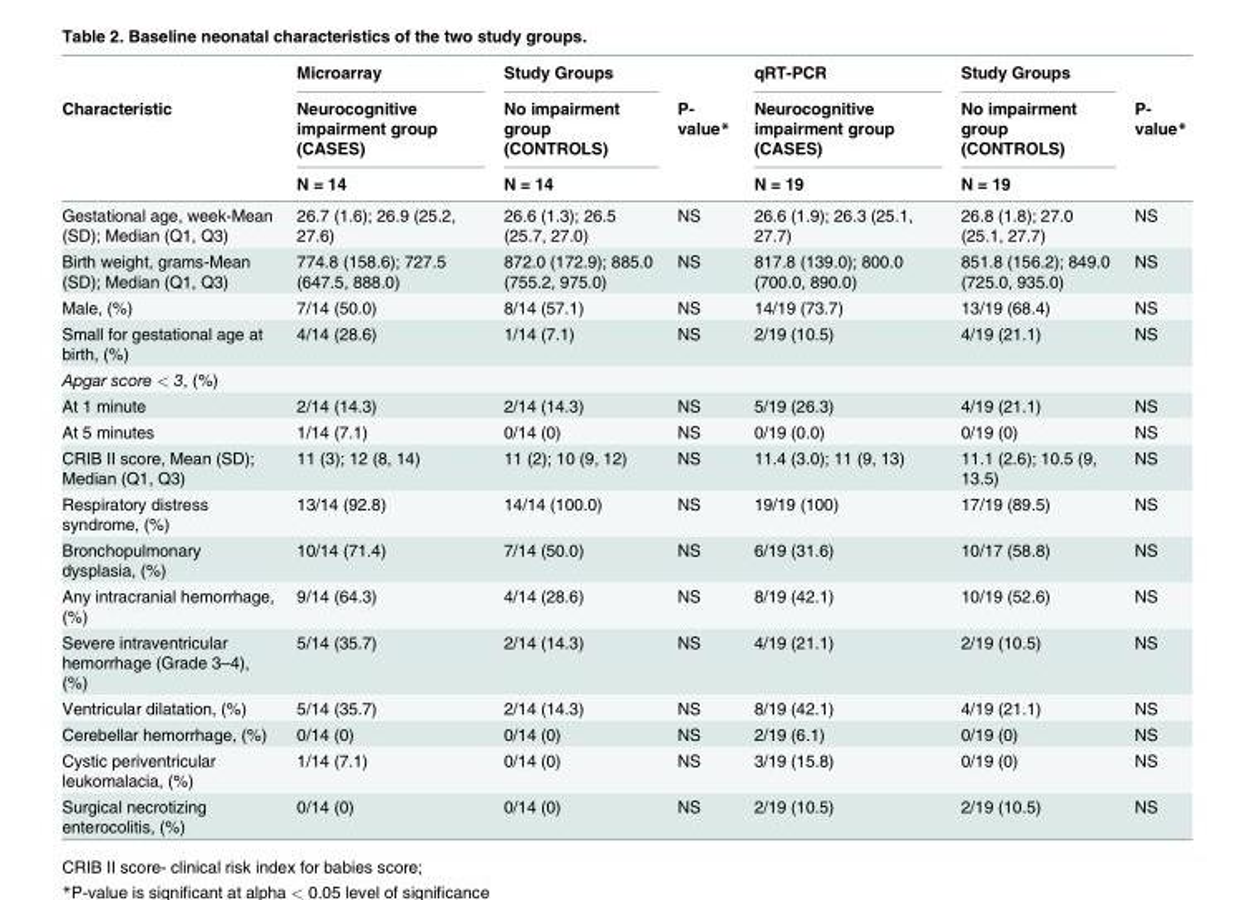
<table><thead><tr><td rowspan="3">Characteristic</td><td rowspan="3">Microarray Neurocognitive impairment group (CASES) N = 14</td><td rowspan="3">Study Groups No impairment group (CONTROLS) N = 14</td><td rowspan="3">P- value*</td><td rowspan="3">qRT-PCR Neurocognitive impairment group (CASES) N = 19</td><td rowspan="3">Study Groups No impairment group (CONTROLS) N = 19</td><td rowspan="3">P- value*</td></tr><tr></tr><tr></tr></thead><tbody><tr><td>Gestational age, week-Mean (SD); Median (Q1, Q3)</td><td>26.7 (1.6); 26.9 (25.2, 27.6)</td><td>26.6 (1.3); 26.5 (25.7, 27.0)</td><td>NS</td><td>26.6 (1.9); 26.3 (25.1, 27.7)</td><td>26.8 (1.8); 27.0 (25.1, 27.7)</td><td>NS</td></tr><tr><td>Birth weight, grams-Mean (SD); Median (Q1, Q3)</td><td>774.8 (158.6); 727.5 (647.5, 888.0)</td><td>872.0 (172.9); 885.0 (755.2, 975.0)</td><td>NS</td><td>817.8 (139.0); 800.0 (700.0, 890.0)</td><td>851.8 (156.2); 849.0 (725.0, 935.0)</td><td>NS</td></tr><tr><td>Male, (%)</td><td>7/14 (50.0)</td><td>8/14 (57.1)</td><td>NS</td><td>14/19 (73.7)</td><td>13/19 (68.4)</td><td>NS</td></tr><tr><td>Small for gestational age at birth, (%)</td><td>4/14 (28.6)</td><td>1/14 (7.1)</td><td>NS</td><td>2/19 (10.5)</td><td>4/19 (21.1)</td><td>NS</td></tr><tr><td colspan="7">Apgar score &lt; 3, (%)</td></tr><tr><td>At 1 minute</td><td>2/14 (14.3)</td><td>2/14 (14.3)</td><td>NS</td><td>5/19 (26.3)</td><td>4/19 (21.1)</td><td>NS</td></tr><tr><td>At 5 minutes</td><td>1/14 (7.1)</td><td>0/14 (0)</td><td>NS</td><td>0/19 (0.0)</td><td>0/19 (0)</td><td>NS</td></tr><tr><td>CRIB II score, Mean (SD); Median (Q1, Q3)</td><td>11 (3); 12 (8, 14)</td><td>11 (2); 10 (9, 12)</td><td>NS</td><td>11.4 (3.0); 11 (9, 13)</td><td>11.1 (2.6); 10.5 (9, 13.5)</td><td>NS</td></tr><tr><td>Respiratory distress syndrome, (%)</td><td>13/14 (92.8)</td><td>14/14 (100.0)</td><td>NS</td><td>19/19 (100)</td><td>17/19 (89.5)</td><td>NS</td></tr><tr><td>Bronchopulmonary dysplasia, (%)</td><td>10/14 (71.4)</td><td>7/14 (50.0)</td><td>NS</td><td>6/19 (31.6)</td><td>10/17 (58.8)</td><td>NS</td></tr><tr><td>Any intracranial hemorrhage, (%)</td><td>9/14 (64.3)</td><td>4/14 (28.6)</td><td>NS</td><td>8/19 (42.1)</td><td>10/19 (52.6)</td><td>NS</td></tr><tr><td>Severe intraventricular hemorrhage (Grade 3–4), (%)</td><td>5/14 (35.7)</td><td>2/14 (14.3)</td><td>NS</td><td>4/19 (21.1)</td><td>2/19 (10.5)</td><td>NS</td></tr><tr><td>Ventricular dilatation, (%)</td><td>5/14 (35.7)</td><td>2/14 (14.3)</td><td>NS</td><td>8/19 (42.1)</td><td>4/19 (21.1)</td><td>NS</td></tr><tr><td>Cerebellar hemorrhage, (%)</td><td>0/14 (0)</td><td>0/14 (0)</td><td>NS</td><td>2/19 (6.1)</td><td>0/19 (0)</td><td>NS</td></tr><tr><td>Cystic periventricular leukomalacia, (%)</td><td>1/14 (7.1)</td><td>0/14 (0)</td><td>NS</td><td>3/19 (15.8)</td><td>0/19 (0)</td><td>NS</td></tr><tr><td>Surgical necrotizing enterocolitis, (%)</td><td>0/14 (0)</td><td>0/14 (0)</td><td>NS</td><td>2/19 (10.5)</td><td>2/19 (10.5)</td><td>NS</td></tr></tbody></table>